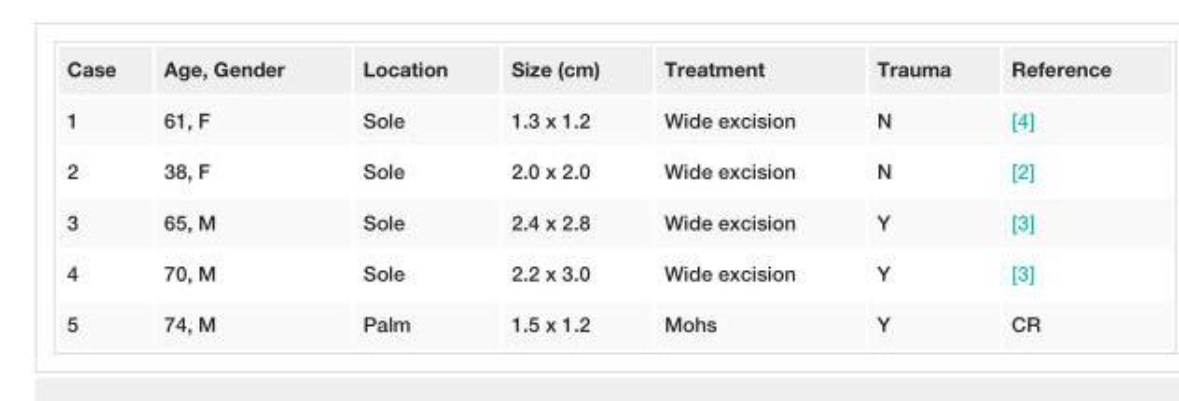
<table><tbody><tr><td>Case</td><td>Age, Gender</td><td>Location</td><td>Size (cm)</td><td>Treatment</td><td>Trauma</td><td>Reference</td></tr><tr><td>1</td><td>61, F</td><td>Sole</td><td>1.3 x 1.2</td><td>Wide excision</td><td>N</td><td>[4]</td></tr><tr><td>2</td><td>38, F</td><td>Sole</td><td>2.0 x 2.0</td><td>Wide excision</td><td>N</td><td>[2]</td></tr><tr><td>3</td><td>65, M</td><td>Sole</td><td>2.4 x 2.8</td><td>Wide excision</td><td>Y</td><td>[3]</td></tr><tr><td>4</td><td>70, M</td><td>Sole</td><td>2.2 x 3.0</td><td>Wide excision</td><td>Y</td><td>[3]</td></tr><tr><td>5</td><td>74, M</td><td>Palm</td><td>1.5 x 1.2</td><td>Mohs</td><td>Y</td><td>CR</td></tr></tbody></table>